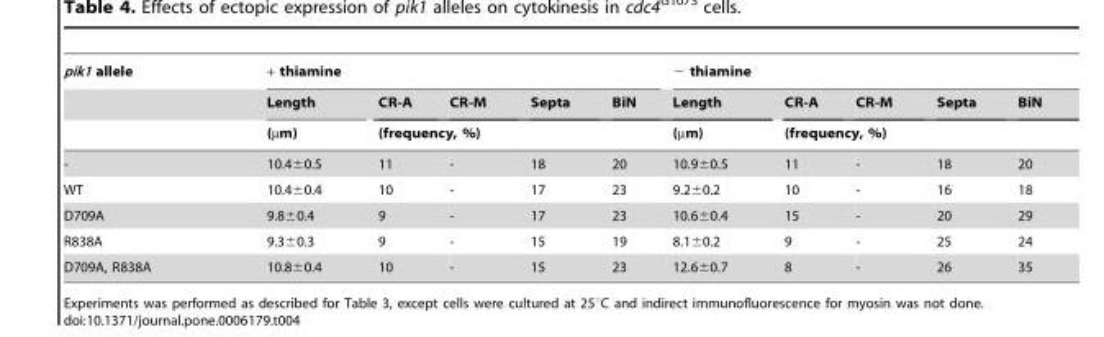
<table><thead><tr><td rowspan="3">pik1 allele</td><td colspan="5">+ thiamine</td><td colspan="5">− thiamine</td></tr><tr><td rowspan="2">Length (µm)</td><td>CR-A</td><td>CR-M</td><td>Septa</td><td>BiN</td><td rowspan="2">Length (µm)</td><td>CR-A</td><td>CR-M</td><td>Septa</td><td>BiN</td></tr><tr><td colspan="4">(frequency, %)</td><td colspan="4">(frequency, %)</td></tr></thead><tbody><tr><td>-</td><td>10.4±0.5</td><td>11</td><td>-</td><td>18</td><td>20</td><td>10.9±0.5</td><td>11</td><td>-</td><td>18</td><td>20</td></tr><tr><td>WT</td><td>10.4±0.4</td><td>10</td><td>-</td><td>17</td><td>23</td><td>9.2±0.2</td><td>10</td><td>-</td><td>16</td><td>18</td></tr><tr><td>D709A</td><td>9.8±0.4</td><td>9</td><td>-</td><td>17</td><td>23</td><td>10.6±0.4</td><td>15</td><td>-</td><td>20</td><td>29</td></tr><tr><td>R838A</td><td>9.3±0.3</td><td>9</td><td>-</td><td>15</td><td>19</td><td>8.1±0.2</td><td>9</td><td>-</td><td>25</td><td>24</td></tr><tr><td>D709A, R838A</td><td>10.8±0.4</td><td>10</td><td>-</td><td>15</td><td>23</td><td>12.6±0.7</td><td>8</td><td>-</td><td>26</td><td>35</td></tr></tbody></table>